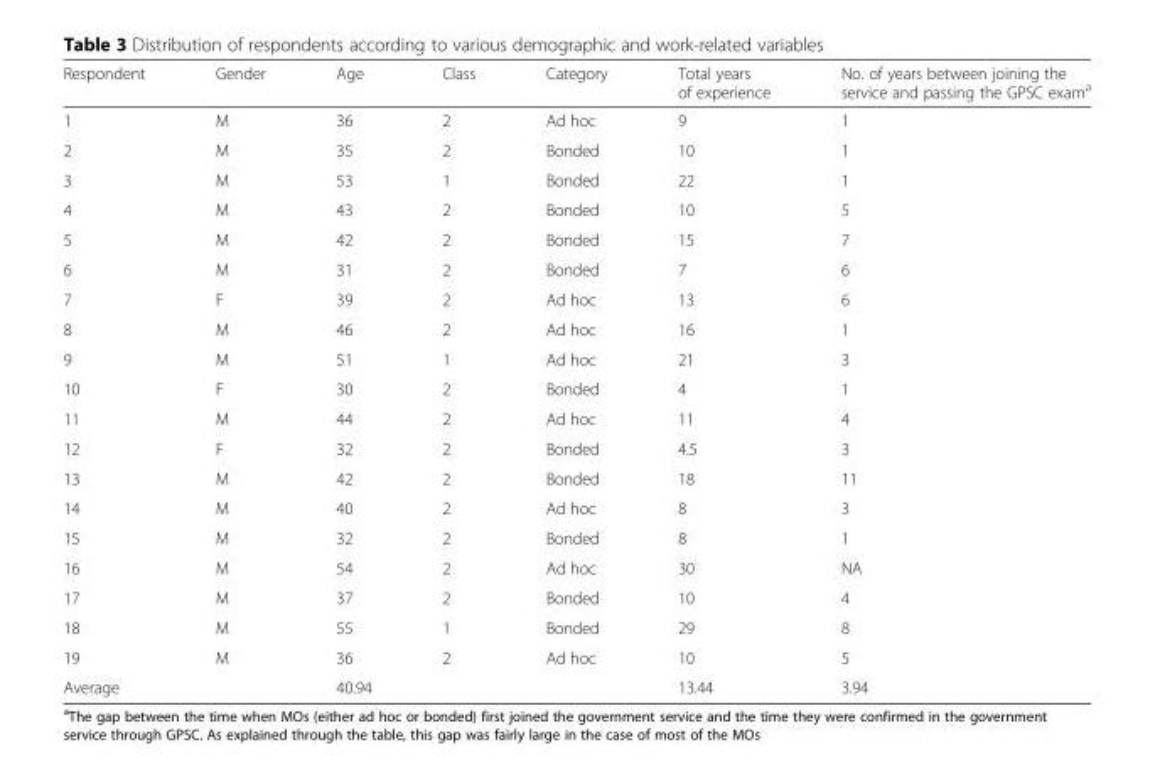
<table><thead><tr><td>Respondent</td><td>Gender</td><td>Age</td><td>Class</td><td>Category</td><td>Total years of experience</td><td>No. of years between joining the service and passing the GPSC exam<sup>a</sup></td></tr></thead><tbody><tr><td>1</td><td>M</td><td>36</td><td>2</td><td>Ad hoc</td><td>9</td><td>1</td></tr><tr><td>2</td><td>M</td><td>35</td><td>2</td><td>Bonded</td><td>10</td><td>1</td></tr><tr><td>3</td><td>M</td><td>53</td><td>1</td><td>Bonded</td><td>22</td><td>1</td></tr><tr><td>4</td><td>M</td><td>43</td><td>2</td><td>Bonded</td><td>10</td><td>5</td></tr><tr><td>5</td><td>M</td><td>42</td><td>2</td><td>Bonded</td><td>15</td><td>7</td></tr><tr><td>6</td><td>M</td><td>31</td><td>2</td><td>Bonded</td><td>7</td><td>6</td></tr><tr><td>7</td><td>F</td><td>39</td><td>2</td><td>Ad hoc</td><td>13</td><td>6</td></tr><tr><td>8</td><td>M</td><td>46</td><td>2</td><td>Ad hoc</td><td>16</td><td>1</td></tr><tr><td>9</td><td>M</td><td>51</td><td>1</td><td>Ad hoc</td><td>21</td><td>3</td></tr><tr><td>10</td><td>F</td><td>30</td><td>2</td><td>Bonded</td><td>4</td><td>1</td></tr><tr><td>11</td><td>M</td><td>44</td><td>2</td><td>Ad hoc</td><td>11</td><td>4</td></tr><tr><td>12</td><td>F</td><td>32</td><td>2</td><td>Bonded</td><td>4.5</td><td>3</td></tr><tr><td>13</td><td>M</td><td>42</td><td>2</td><td>Bonded</td><td>18</td><td>11</td></tr><tr><td>14</td><td>M</td><td>40</td><td>2</td><td>Ad hoc</td><td>8</td><td>3</td></tr><tr><td>15</td><td>M</td><td>32</td><td>2</td><td>Bonded</td><td>8</td><td>1</td></tr><tr><td>16</td><td>M</td><td>54</td><td>2</td><td>Ad hoc</td><td>30</td><td>NA</td></tr><tr><td>17</td><td>M</td><td>37</td><td>2</td><td>Bonded</td><td>10</td><td>4</td></tr><tr><td>18</td><td>M</td><td>55</td><td>1</td><td>Bonded</td><td>29</td><td>8</td></tr><tr><td>19</td><td>M</td><td>36</td><td>2</td><td>Ad hoc</td><td>10</td><td>5</td></tr><tr><td>Average</td><td></td><td>40.94</td><td></td><td></td><td>13.44</td><td>3.94</td></tr></tbody></table>